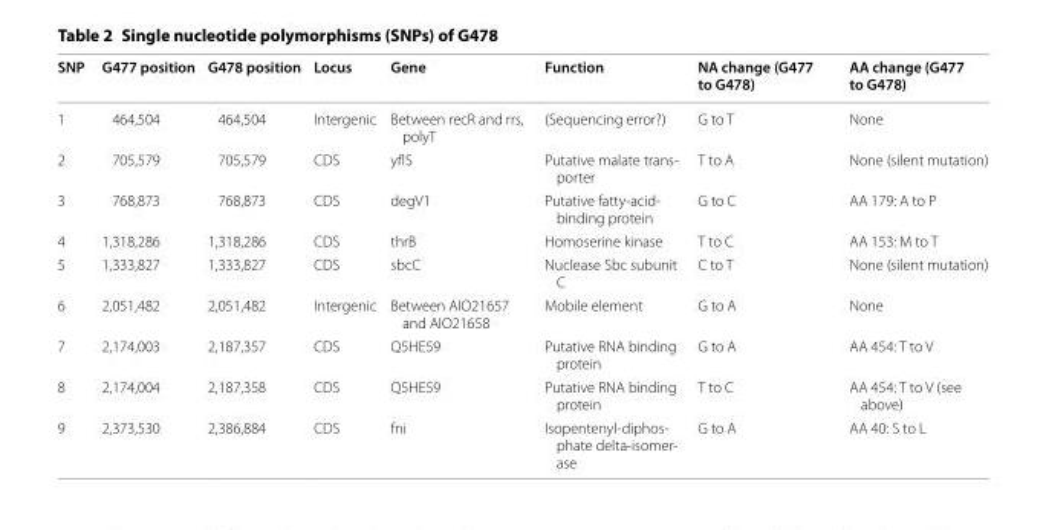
<table><thead><tr><td>SNP</td><td>G477 position</td><td>G478 position</td><td>Locus</td><td>Gene</td><td>Function</td><td>NA change (G477 to G478)</td><td>AA change (G477 to G478)</td></tr></thead><tbody><tr><td>1</td><td>464,504</td><td>464,504</td><td>Intergenic</td><td>Between recR and rrs, polyT</td><td>(Sequencing error?)</td><td>G to T</td><td>None</td></tr><tr><td>2</td><td>705,579</td><td>705,579</td><td>CDS</td><td>yflS</td><td>Putative malate trans- porter</td><td>T to A</td><td>None (silent mutation)</td></tr><tr><td>3</td><td>768,873</td><td>768,873</td><td>CDS</td><td>degV1</td><td>Putative fatty-acid- binding protein</td><td>G to C</td><td>AA 179: A to P</td></tr><tr><td>4</td><td>1,318,286</td><td>1,318,286</td><td>CDS</td><td>thrB</td><td>Homoserine kinase</td><td>T to C</td><td>AA 153: M to T</td></tr><tr><td>5</td><td>1,333,827</td><td>1,333,827</td><td>CDS</td><td>sbcC</td><td>Nuclease Sbc subunit C</td><td>C to T</td><td>None (silent mutation)</td></tr><tr><td>6</td><td>2,051,482</td><td>2,051,482</td><td>Intergenic</td><td>Between AIO21657 and AIO21658</td><td>Mobile element</td><td>G to A</td><td>None</td></tr><tr><td>7</td><td>2,174,003</td><td>2,187,357</td><td>CDS</td><td>Q5HE59</td><td>Putative RNA binding protein</td><td>G to A</td><td>AA 454: T to V</td></tr><tr><td>8</td><td>2,174,004</td><td>2,187,358</td><td>CDS</td><td>Q5HE59</td><td>Putative RNA binding protein</td><td>T to C</td><td>AA 454: T to V (see above)</td></tr><tr><td>9</td><td>2,373,530</td><td>2,386,884</td><td>CDS</td><td>fni</td><td>Isopentenyl-diphos- phate delta-isomer- ase</td><td>G to A</td><td>AA 40: S to L</td></tr></tbody></table>